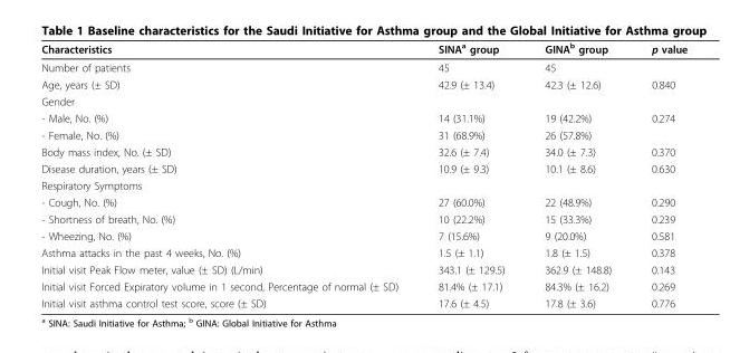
<table><thead><tr><td>Characteristics</td><td>SINA<sup>a</sup> group</td><td>GINA<sup>b</sup> group</td><td>p value</td></tr></thead><tbody><tr><td>Number of patients</td><td>45</td><td>45</td><td></td></tr><tr><td>Age, years (± SD)</td><td>42.9 (± 13.4)</td><td>42.3 (± 12.6)</td><td>0.840</td></tr><tr><td colspan="4">Gender</td></tr><tr><td>- Male, No. (%)</td><td>14 (31.1%)</td><td>19 (42.2%)</td><td>0.274</td></tr><tr><td>- Female, No. (%)</td><td>31 (68.9%)</td><td>26 (57.8%)</td><td></td></tr><tr><td>Body mass index, No. (± SD)</td><td>32.6 (± 7.4)</td><td>34.0 (± 7.3)</td><td>0.370</td></tr><tr><td>Disease duration, years (± SD)</td><td>10.9 (± 9.3)</td><td>10.1 (± 8.6)</td><td>0.630</td></tr><tr><td colspan="4">Respiratory Symptoms</td></tr><tr><td>- Cough, No. (%)</td><td>27 (60.0%)</td><td>22 (48.9%)</td><td>0.290</td></tr><tr><td>- Shortness of breath, No. (%)</td><td>10 (22.2%)</td><td>15 (33.3%)</td><td>0.239</td></tr><tr><td>- Wheezing, No. (%)</td><td>7 (15.6%)</td><td>9 (20.0%)</td><td>0.581</td></tr><tr><td>Asthma attacks in the past 4 weeks, No. (%)</td><td>1.5 (± 1.1)</td><td>1.8 (± 1.5)</td><td>0.378</td></tr><tr><td>Initial visit Peak Flow meter, value (± SD) (L/min)</td><td>343.1 (± 129.5)</td><td>362.9 (± 148.8)</td><td>0.143</td></tr><tr><td>Initial visit Forced Expiratory volume in 1 second, Percentage of normal (± SD)</td><td>81.4% (± 17.1)</td><td>84.3% (± 16.2)</td><td>0.269</td></tr><tr><td>Initial visit asthma control test score, score (± SD)</td><td>17.6 (± 4.5)</td><td>17.8 (± 3.6)</td><td>0.776</td></tr></tbody></table>